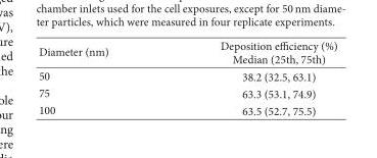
<table><thead><tr><td>Diameter (nm)</td><td>Deposition efficiency (%) Median (25th, 75th)</td></tr></thead><tbody><tr><td>50</td><td>38.2 (32.5, 63.1)</td></tr><tr><td>75</td><td>63.3 (53.1, 74.9)</td></tr><tr><td>100</td><td>63.5 (52.7, 75.5)</td></tr></tbody></table>